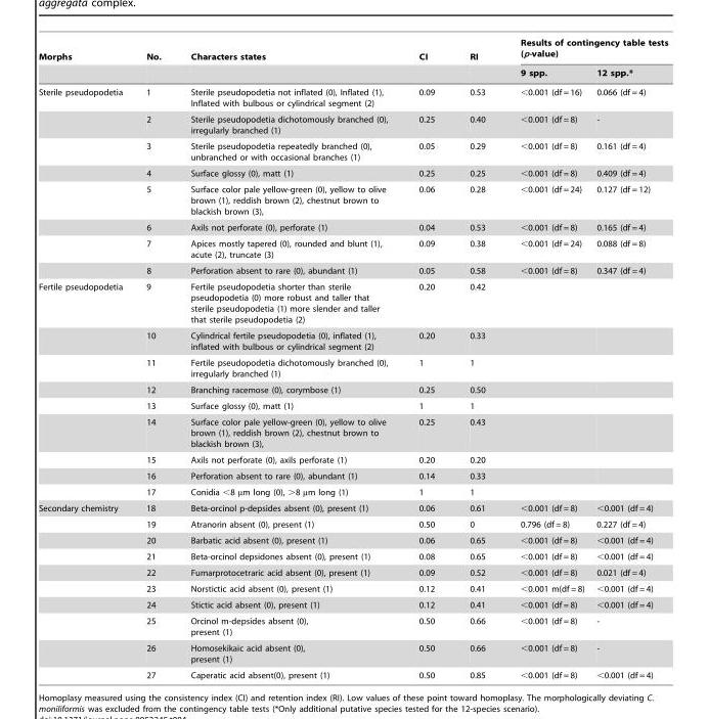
<table><thead><tr><td rowspan="2">Morphs</td><td rowspan="2">No.</td><td rowspan="2">Characters states</td><td rowspan="2">CI</td><td rowspan="2">RI</td><td colspan="2">Results of contingency table tests (p-value)</td></tr><tr><td>9 spp.</td><td>12 spp.*</td></tr></thead><tbody><tr><td rowspan="8">Sterile pseudopodetia</td><td>1</td><td>Sterile pseudopodetia not inflated (0), Inflated (1), Inflated with bulbous or cylindrical segment (2)</td><td>0.09</td><td>0.53</td><td>&lt;0.001 (df = 16)</td><td>0.066 (df = 4)</td></tr><tr><td>2</td><td>Sterile pseudopodetia dichotomously branched (0), irregularly branched (1)</td><td>0.25</td><td>0.40</td><td>&lt;0.001 (df = 8)</td><td>-</td></tr><tr><td>3</td><td>Sterile pseudopodetia repeatedly branched (0), unbranched or with occasional branches (1)</td><td>0.05</td><td>0.29</td><td>&lt;0.001 (df = 8)</td><td>0.161 (df = 4)</td></tr><tr><td>4</td><td>Surface glossy (0), matt (1)</td><td>0.25</td><td>0.25</td><td>&lt;0.001 (df = 8)</td><td>0.409 (df = 4)</td></tr><tr><td>5</td><td>Surface color pale yellow-green (0), yellow to olive brown (1), reddish brown (2), chestnut brown to blackish brown (3),</td><td>0.06</td><td>0.28</td><td>&lt;0.001 (df = 24)</td><td>0.127 (df = 12)</td></tr><tr><td>6</td><td>Axils not perforate (0), perforate (1)</td><td>0.04</td><td>0.53</td><td>&lt;0.001 (df = 8)</td><td>0.165 (df = 4)</td></tr><tr><td>7</td><td>Apices mostly tapered (0), rounded and blunt (1), acute (2), truncate (3)</td><td>0.09</td><td>0.38</td><td>&lt;0.001 (df = 24)</td><td>0.088 (df = 8)</td></tr><tr><td>8</td><td>Perforation absent to rare (0), abundant (1)</td><td>0.05</td><td>0.58</td><td>&lt;0.001 (df = 8)</td><td>0.347 (df = 4)</td></tr><tr><td rowspan="9">Fertile pseudopodetia</td><td>9</td><td>Fertile pseudopodetia shorter than sterile pseudopodetia (0) more robust and taller that sterile pseudopodetia (1) more slender and taller that sterile pseudopodetia (2)</td><td>0.20</td><td>0.42</td><td></td><td></td></tr><tr><td>10</td><td>Cylindrical fertile pseudopodetia (0), inflated (1), inflated with bulbous or cylindrical segment (2)</td><td>0.20</td><td>0.33</td><td></td><td></td></tr><tr><td>11</td><td>Fertile pseudopodetia dichotomously branched (0), irregularly branched (1)</td><td>1</td><td>1</td><td></td><td></td></tr><tr><td>12</td><td>Branching racemose (0), corymbose (1)</td><td>0.25</td><td>0.50</td><td></td><td></td></tr><tr><td>13</td><td>Surface glossy (0), matt (1)</td><td>1</td><td>1</td><td></td><td></td></tr><tr><td>14</td><td>Surface color pale yellow-green (0), yellow to olive brown (1), reddish brown (2), chestnut brown to blackish brown (3),</td><td>0.25</td><td>0.43</td><td></td><td></td></tr><tr><td>15</td><td>Axils not perforate (0), axils perforate (1)</td><td>0.20</td><td>0.20</td><td></td><td></td></tr><tr><td>16</td><td>Perforation absent to rare (0), abundant (1)</td><td>0.14</td><td>0.33</td><td></td><td></td></tr><tr><td>17</td><td>Conidia &lt;8 µm long (0), &gt;8 µm long (1)</td><td>1</td><td>1</td><td></td><td></td></tr><tr><td rowspan="10">Secondary chemistry</td><td>18</td><td>Beta-orcinol p-depsides absent (0), present (1)</td><td>0.06</td><td>0.61</td><td>&lt;0.001 (df = 8)</td><td>&lt;0.001 (df = 4)</td></tr><tr><td>19</td><td>Atranorin absent (0), present (1)</td><td>0.50</td><td>0</td><td>0.796 (df = 8)</td><td>0.227 (df = 4)</td></tr><tr><td>20</td><td>Barbatic acid absent (0), present (1)</td><td>0.06</td><td>0.65</td><td>&lt;0.001 (df = 8)</td><td>&lt;0.001 (df = 4)</td></tr><tr><td>21</td><td>Beta-orcinol depsidones absent (0), present (1)</td><td>0.08</td><td>0.65</td><td>&lt;0.001 (df = 8)</td><td>&lt;0.001 (df = 4)</td></tr><tr><td>22</td><td>Fumarprotocetraric acid absent (0), present (1)</td><td>0.09</td><td>0.52</td><td>&lt;0.001 (df = 8)</td><td>0.021 (df = 4)</td></tr><tr><td>23</td><td>Norstictic acid absent (0), present (1)</td><td>0.12</td><td>0.41</td><td>&lt;0.001 m(df = 8)</td><td>&lt;0.001 (df = 4)</td></tr><tr><td>24</td><td>Stictic acid absent (0), present (1)</td><td>0.12</td><td>0.41</td><td>&lt;0.001 (df = 8)</td><td>&lt;0.001 (df = 4)</td></tr><tr><td>25</td><td>Orcinol m-depsides absent (0), present (1)</td><td>0.50</td><td>0.66</td><td>&lt;0.001 (df = 8)</td><td>-</td></tr><tr><td>26</td><td>Homosekikaic acid absent (0), present (1)</td><td>0.50</td><td>0.66</td><td>&lt;0.001 (df = 8)</td><td>-</td></tr><tr><td>27</td><td>Caperatic acid absent(0), present (1)</td><td>0.50</td><td>0.85</td><td>&lt;0.001 (df = 8)</td><td>&lt;0.001 (df = 4)</td></tr></tbody></table>